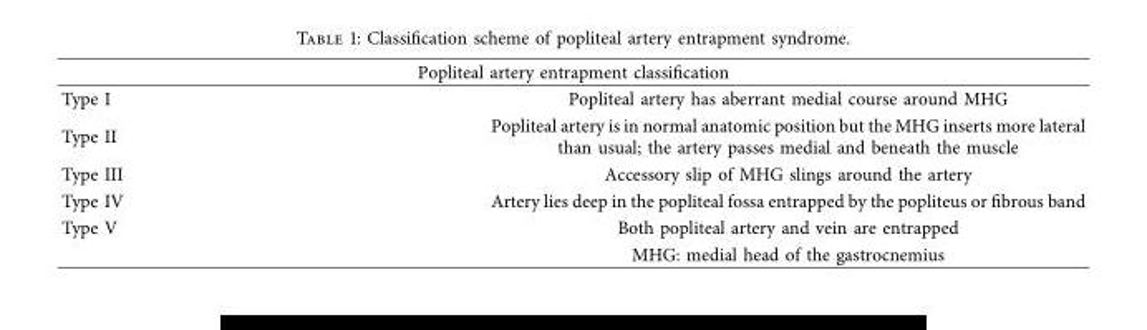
<table><thead><tr><td colspan="2">Popliteal artery entrapment classifcation</td></tr><tr><td>Type I</td><td>Popliteal artery has aberrant medial course around MHG</td></tr></thead><tbody><tr><td>Type II</td><td>Popliteal artery is in normal anatomic position but the MHG inserts more lateral than usual; the artery passes medial and beneath the muscle</td></tr><tr><td>Type III</td><td>Accessory slip of MHG slings around the artery</td></tr><tr><td>Type IV</td><td>Artery lies deep in the popliteal fossa entrapped by the popliteus or fbrous band</td></tr><tr><td rowspan="2">Type V</td><td>Both popliteal artery and vein are entrapped</td></tr><tr><td>MHG: medial head of the gastrocnemius</td></tr></tbody></table>